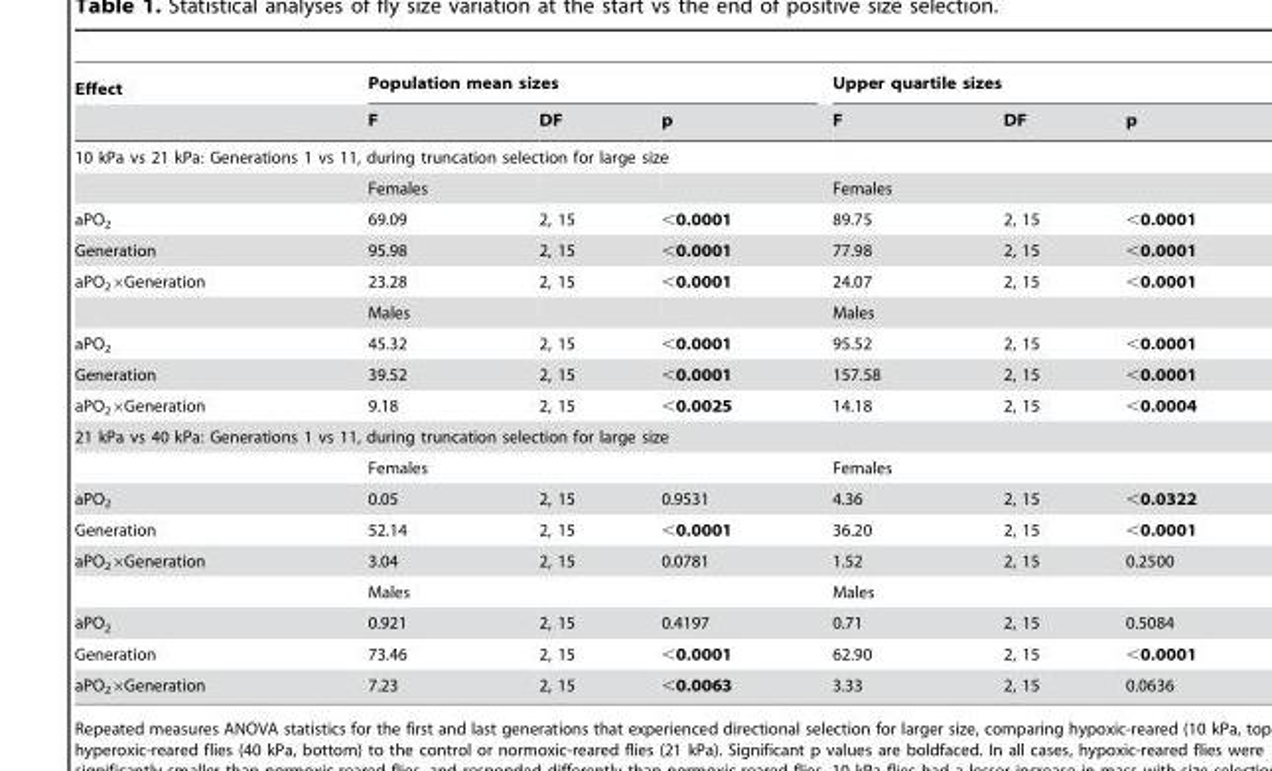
<table><thead><tr><td rowspan="2">Effect</td><td colspan="3">Population mean sizes</td><td colspan="3">Upper quartile sizes</td></tr><tr><td>F</td><td>DF</td><td>p</td><td>F</td><td>DF</td><td>p</td></tr></thead><tbody><tr><td colspan="7">10 kPa vs 21 kPa: Generations 1 vs 11, during truncation selection for large size</td></tr><tr><td></td><td>Females</td><td></td><td></td><td>Females</td><td></td><td></td></tr><tr><td>aPO<sub>2</sub></td><td>69.09</td><td>2, 15</td><td>&lt;0.0001</td><td>89.75</td><td>2, 15</td><td>&lt;0.0001</td></tr><tr><td>Generation</td><td>95.98</td><td>2, 15</td><td>&lt;0.0001</td><td>77.98</td><td>2, 15</td><td>&lt;0.0001</td></tr><tr><td rowspan="2">aPO<sub>2</sub>×Generation</td><td>23.28</td><td>2, 15</td><td>&lt;0.0001</td><td>24.07</td><td>2, 15</td><td>&lt;0.0001</td></tr><tr><td>Males</td><td></td><td></td><td>Males</td><td></td><td></td></tr><tr><td>aPO<sub>2</sub></td><td>45.32</td><td>2, 15</td><td>&lt;0.0001</td><td>95.52</td><td>2, 15</td><td>&lt;0.0001</td></tr><tr><td>Generation</td><td>39.52</td><td>2, 15</td><td>&lt;0.0001</td><td>157.58</td><td>2, 15</td><td>&lt;0.0001</td></tr><tr><td>aPO<sub>2</sub>×Generation</td><td>9.18</td><td>2, 15</td><td>&lt;0.0025</td><td>14.18</td><td>2, 15</td><td>&lt;0.0004</td></tr><tr><td colspan="7">21 kPa vs 40 kPa: Generations 1 vs 11, during truncation selection for large size</td></tr><tr><td></td><td>Females</td><td></td><td></td><td>Females</td><td></td><td></td></tr><tr><td>aPO<sub>2</sub></td><td>0.05</td><td>2, 15</td><td>0.9531</td><td>4.36</td><td>2, 15</td><td>&lt;0.0322</td></tr><tr><td>Generation</td><td>52.14</td><td>2, 15</td><td>&lt;0.0001</td><td>36.20</td><td>2, 15</td><td>&lt;0.0001</td></tr><tr><td rowspan="2">aPO<sub>2</sub>×Generation</td><td>3.04</td><td>2, 15</td><td>0.0781</td><td>1.52</td><td>2, 15</td><td>0.2500</td></tr><tr><td>Males</td><td></td><td></td><td>Males</td><td></td><td></td></tr><tr><td>aPO<sub>2</sub></td><td>0.921</td><td>2, 15</td><td>0.4197</td><td>0.71</td><td>2, 15</td><td>0.5084</td></tr><tr><td>Generation</td><td>73.46</td><td>2, 15</td><td>&lt;0.0001</td><td>62.90</td><td>2, 15</td><td>&lt;0.0001</td></tr><tr><td>aPO<sub>2</sub>×Generation</td><td>7.23</td><td>2, 15</td><td>&lt;0.0063</td><td>3.33</td><td>2, 15</td><td>0.0636</td></tr></tbody></table>